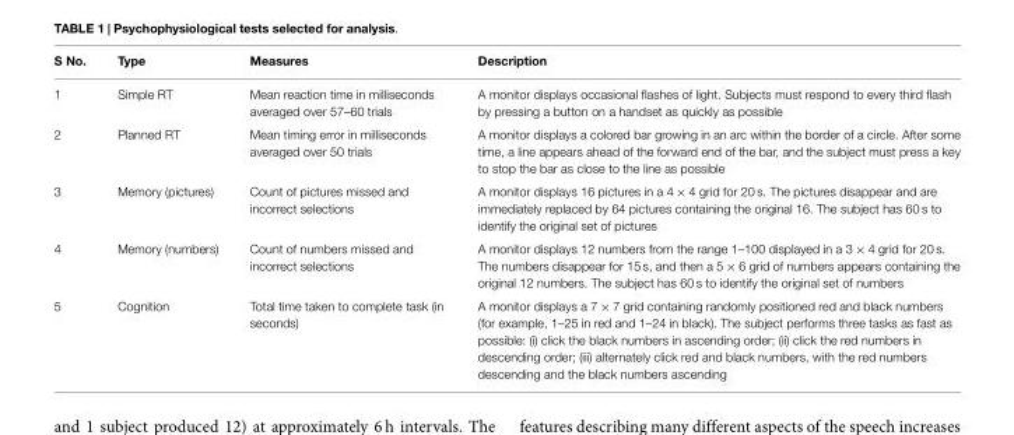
<table><thead><tr><td>S No.</td><td>Type</td><td>Measures</td><td>Description</td></tr></thead><tbody><tr><td>1</td><td>Simple RT</td><td>Mean reaction time in milliseconds averaged over 57–60 trials</td><td>A monitor displays occasional flashes of light. Subjects must respond to every third flash by pressing a button on a handset as quickly as possible</td></tr><tr><td>2</td><td>Planned RT</td><td>Mean timing error in milliseconds averaged over 50 trials</td><td>A monitor displays a colored bar growing in an arc within the border of a circle. After some time, a line appears ahead of the forward end of the bar, and the subject must press a key to stop the bar as close to the line as possible</td></tr><tr><td>3</td><td>Memory (pictures)</td><td>Count of pictures missed and incorrect selections</td><td>A monitor displays 16 pictures in a 4 × 4 grid for 20 s. The pictures disappear and are immediately replaced by 64 pictures containing the original 16. The subject has 60 s to identify the original set of pictures</td></tr><tr><td>4</td><td>Memory (numbers)</td><td>Count of numbers missed and incorrect selections</td><td>A monitor displays 12 numbers from the range 1–100 displayed in a 3 × 4 grid for 20 s. The numbers disappear for 15 s, and then a 5 × 6 grid of numbers appears containing the original 12 numbers. The subject has 60 s to identify the original set of numbers</td></tr><tr><td>5</td><td>Cognition</td><td>Total time taken to complete task (in seconds)</td><td>A monitor displays a 7 × 7 grid containing randomly positioned red and black numbers (for example, 1–25 in red and 1–24 in black). The subject performs three tasks as fast as possible: (i) click the black numbers in ascending order; (ii) click the red numbers in descending order; (iii) alternately click red and black numbers, with the red numbers descending and the black numbers ascending</td></tr></tbody></table>